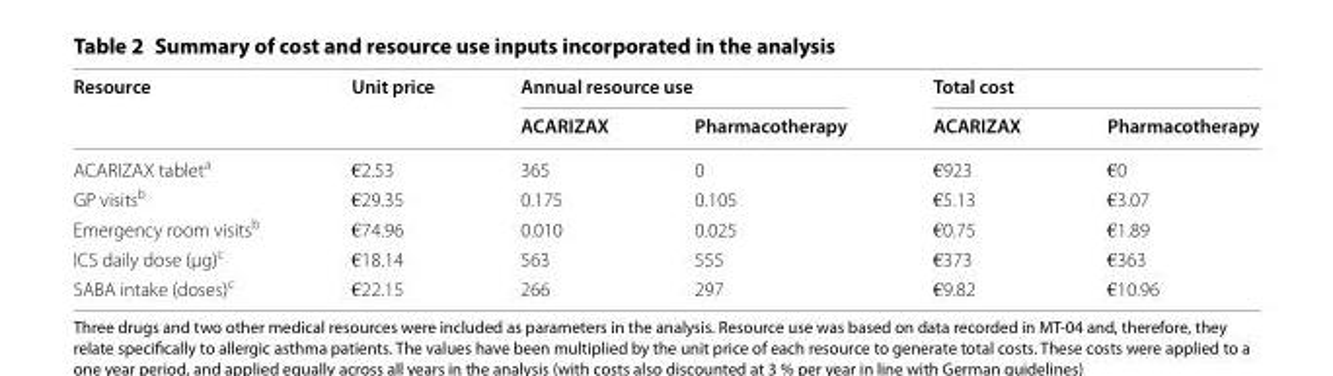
<table><thead><tr><td rowspan="2">Resource</td><td rowspan="2">Unit price</td><td colspan="2">Annual resource use</td><td colspan="2">Total cost</td></tr><tr><td>ACARIZAX</td><td>Pharmacotherapy</td><td>ACARIZAX</td><td>Pharmacotherapy</td></tr></thead><tbody><tr><td>ACARIZAX tablet<sup>a</sup></td><td>€2.53</td><td>365</td><td>0</td><td>€923</td><td>€0</td></tr><tr><td>GP visits<sup>b</sup></td><td>€29.35</td><td>0.175</td><td>0.105</td><td>€5.13</td><td>€3.07</td></tr><tr><td>Emergency room visits<sup>b</sup></td><td>€74.96</td><td>0.010</td><td>0.025</td><td>€0.75</td><td>€1.89</td></tr><tr><td>ICS daily dose (μg)<sup>c</sup></td><td>€18.14</td><td>563</td><td>555</td><td>€373</td><td>€363</td></tr><tr><td>SABA intake (doses)<sup>c</sup></td><td>€22.15</td><td>266</td><td>297</td><td>€9.82</td><td>€10.96</td></tr></tbody></table>